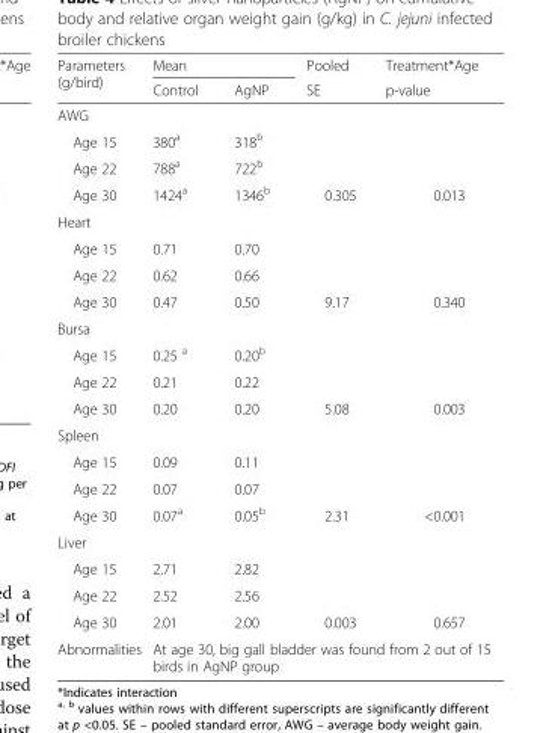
<table><thead><tr><td rowspan="2">Parameters (g/bird)</td><td colspan="2">Mean</td><td rowspan="2">Pooled SE</td><td rowspan="2">Treatment*Age p-value</td></tr><tr><td>Control</td><td>AgNP</td></tr></thead><tbody><tr><td colspan="5">AWG</td></tr><tr><td>Age 15</td><td>380<sup>a</sup></td><td>318<sup>b</sup></td><td></td><td></td></tr><tr><td>Age 22</td><td>788<sup>a</sup></td><td>722<sup>b</sup></td><td></td><td></td></tr><tr><td>Age 30</td><td>1424<sup>a</sup></td><td>1346<sup>b</sup></td><td>0.305</td><td>0.013</td></tr><tr><td colspan="5">Heart</td></tr><tr><td>Age 15</td><td>0.71</td><td>0.70</td><td></td><td></td></tr><tr><td>Age 22</td><td>0.62</td><td>0.66</td><td></td><td></td></tr><tr><td>Age 30</td><td>0.47</td><td>0.50</td><td>9.17</td><td>0.340</td></tr><tr><td colspan="5">Bursa</td></tr><tr><td>Age 15</td><td>0.25 <sup>a</sup></td><td>0.20<sup>b</sup></td><td></td><td></td></tr><tr><td>Age 22</td><td>0.21</td><td>0.22</td><td></td><td></td></tr><tr><td>Age 30</td><td>0.20</td><td>0.20</td><td>5.08</td><td>0.003</td></tr><tr><td colspan="5">Spleen</td></tr><tr><td>Age 15</td><td>0.09</td><td>0.11</td><td></td><td></td></tr><tr><td>Age 22</td><td>0.07</td><td>0.07</td><td></td><td></td></tr><tr><td>Age 30</td><td>0.07<sup>a</sup></td><td>0.05<sup>b</sup></td><td>2.31</td><td>&lt;0.001</td></tr><tr><td colspan="5">Liver</td></tr><tr><td>Age 15</td><td>2.71</td><td>2.82</td><td></td><td></td></tr><tr><td>Age 22</td><td>2.52</td><td>2.56</td><td></td><td></td></tr><tr><td>Age 30</td><td>2.01</td><td>2.00</td><td>0.003</td><td>0.657</td></tr><tr><td>Abnormalities</td><td colspan="4">At age 30, big gall bladder was found from 2 out of 15 birds in AgNP group</td></tr></tbody></table>